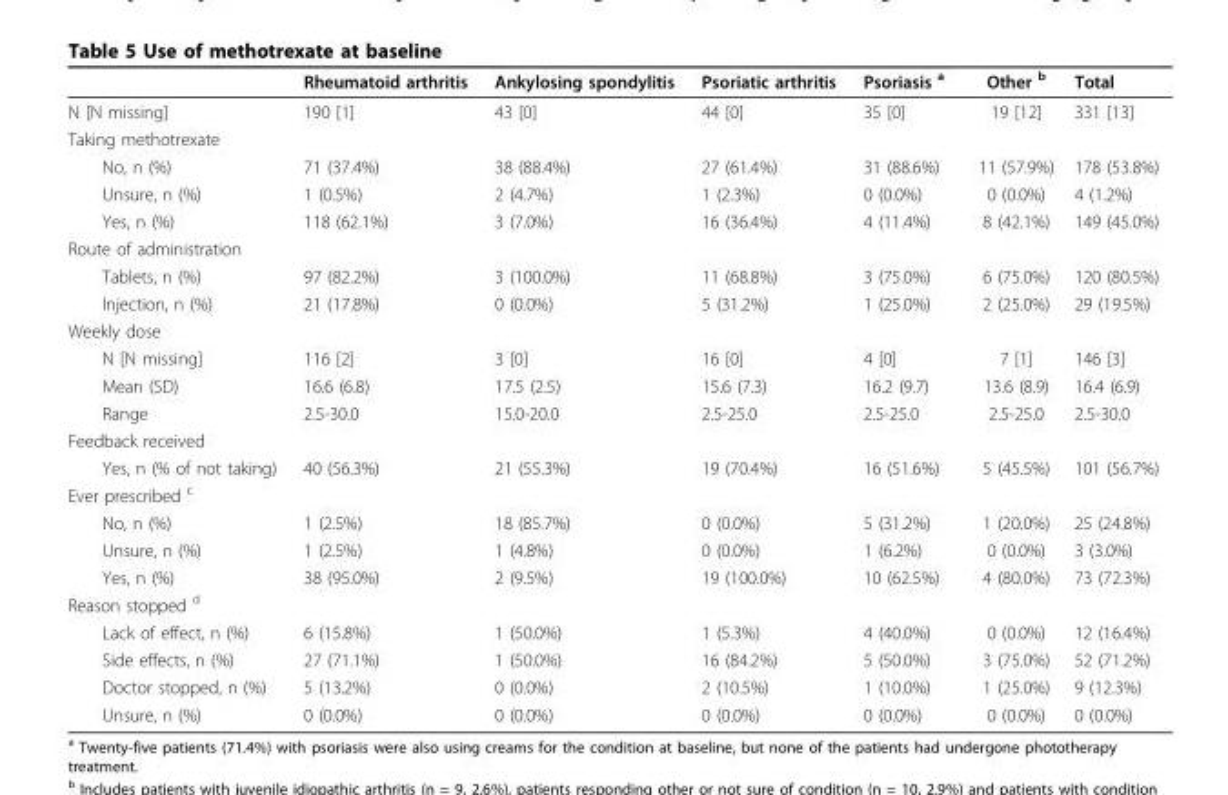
<table><thead><tr><td></td><td>Rheumatoid arthritis</td><td>Ankylosing spondylitis</td><td>Psoriatic arthritis</td><td>Psoriasis <sup>a</sup></td><td>Other <sup>b</sup></td><td>Total</td></tr></thead><tbody><tr><td>N [N missing]</td><td>190 [1]</td><td>43 [0]</td><td>44 [0]</td><td>35 [0]</td><td>19 [12]</td><td>331 [13]</td></tr><tr><td colspan="7">Taking methotrexate</td></tr><tr><td>No, n (%)</td><td>71 (37.4%)</td><td>38 (88.4%)</td><td>27 (61.4%)</td><td>31 (88.6%)</td><td>11 (57.9%)</td><td>178 (53.8%)</td></tr><tr><td>Unsure, n (%)</td><td>1 (0.5%)</td><td>2 (4.7%)</td><td>1 (2.3%)</td><td>0 (0.0%)</td><td>0 (0.0%)</td><td>4 (1.2%)</td></tr><tr><td>Yes, n (%)</td><td>118 (62.1%)</td><td>3 (7.0%)</td><td>16 (36.4%)</td><td>4 (11.4%)</td><td>8 (42.1%)</td><td>149 (45.0%)</td></tr><tr><td colspan="7">Route of administration</td></tr><tr><td>Tablets, n (%)</td><td>97 (82.2%)</td><td>3 (100.0%)</td><td>11 (68.8%)</td><td>3 (75.0%)</td><td>6 (75.0%)</td><td>120 (80.5%)</td></tr><tr><td>Injection, n (%)</td><td>21 (17.8%)</td><td>0 (0.0%)</td><td>5 (31.2%)</td><td>1 (25.0%)</td><td>2 (25.0%)</td><td>29 (19.5%)</td></tr><tr><td colspan="7">Weekly dose</td></tr><tr><td>N [N missing]</td><td>116 [2]</td><td>3 [0]</td><td>16 [0]</td><td>4 [0]</td><td>7 [1]</td><td>146 [3]</td></tr><tr><td>Mean (SD)</td><td>16.6 (6.8)</td><td>17.5 (2.5)</td><td>15.6 (7.3)</td><td>16.2 (9.7)</td><td>13.6 (8.9)</td><td>16.4 (6.9)</td></tr><tr><td>Range</td><td>2.5-30.0</td><td>15.0-20.0</td><td>2.5-25.0</td><td>2.5-25.0</td><td>2.5-25.0</td><td>2.5-30.0</td></tr><tr><td colspan="7">Feedback received</td></tr><tr><td>Yes, n (% of not taking)</td><td>40 (56.3%)</td><td>21 (55.3%)</td><td>19 (70.4%)</td><td>16 (51.6%)</td><td>5 (45.5%)</td><td>101 (56.7%)</td></tr><tr><td colspan="7">Ever prescribed <sup>c</sup></td></tr><tr><td>No, n (%)</td><td>1 (2.5%)</td><td>18 (85.7%)</td><td>0 (0.0%)</td><td>5 (31.2%)</td><td>1 (20.0%)</td><td>25 (24.8%)</td></tr><tr><td>Unsure, n (%)</td><td>1 (2.5%)</td><td>1 (4.8%)</td><td>0 (0.0%)</td><td>1 (6.2%)</td><td>0 (0.0%)</td><td>3 (3.0%)</td></tr><tr><td>Yes, n (%)</td><td>38 (95.0%)</td><td>2 (9.5%)</td><td>19 (100.0%)</td><td>10 (62.5%)</td><td>4 (80.0%)</td><td>73 (72.3%)</td></tr><tr><td colspan="7">Reason stopped <sup>d</sup></td></tr><tr><td>Lack of effect, n (%)</td><td>6 (15.8%)</td><td>1 (50.0%)</td><td>1 (5.3%)</td><td>4 (40.0%)</td><td>0 (0.0%)</td><td>12 (16.4%)</td></tr><tr><td>Side effects, n (%)</td><td>27 (71.1%)</td><td>1 (50.0%)</td><td>16 (84.2%)</td><td>5 (50.0%)</td><td>3 (75.0%)</td><td>52 (71.2%)</td></tr><tr><td>Doctor stopped, n (%)</td><td>5 (13.2%)</td><td>0 (0.0%)</td><td>2 (10.5%)</td><td>1 (10.0%)</td><td>1 (25.0%)</td><td>9 (12.3%)</td></tr><tr><td>Unsure, n (%)</td><td>0 (0.0%)</td><td>0 (0.0%)</td><td>0 (0.0%)</td><td>0 (0.0%)</td><td>0 (0.0%)</td><td>0 (0.0%)</td></tr></tbody></table>